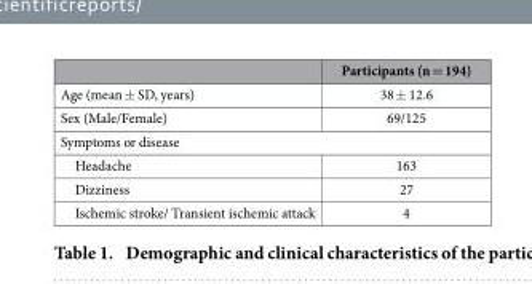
<table><thead><tr><td></td><td>Participants (n = 194)</td></tr></thead><tbody><tr><td>Age (mean ± SD, years)</td><td>38 ± 12.6</td></tr><tr><td>Sex (Male/Female)</td><td>69/125</td></tr><tr><td colspan="2">Symptoms or disease</td></tr><tr><td>Headache</td><td>163</td></tr><tr><td>Dizziness</td><td>27</td></tr><tr><td>Ischemic stroke/ Transient ischemic attack</td><td>4</td></tr></tbody></table>